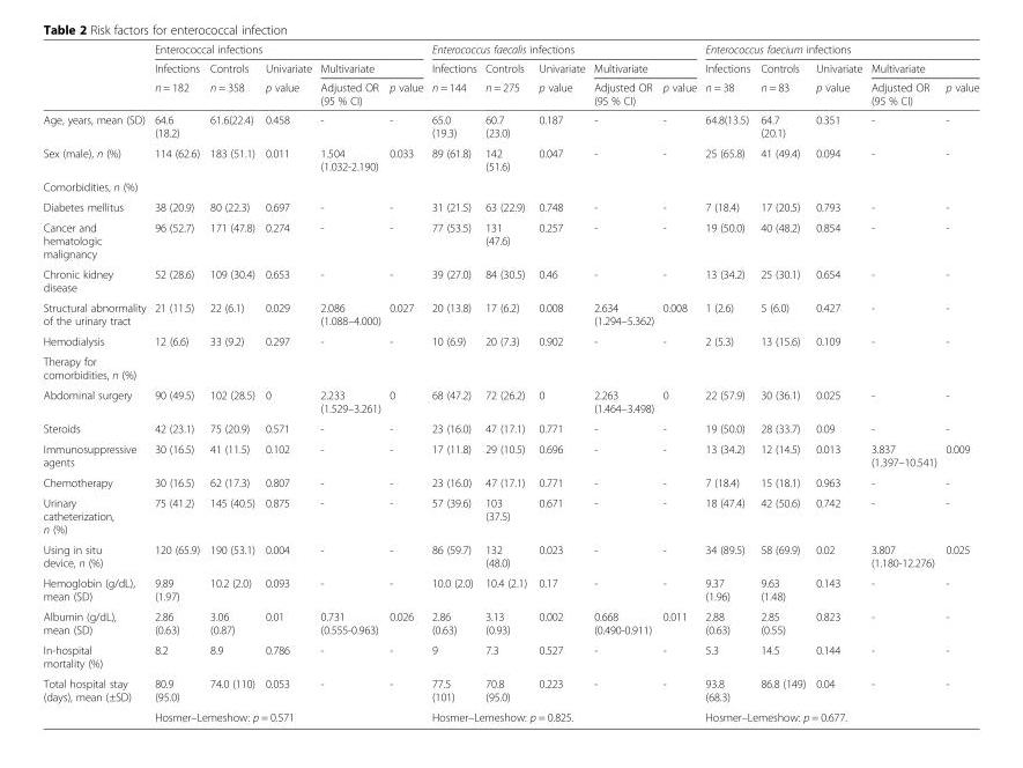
<table><thead><tr><td rowspan="3"></td><td colspan="5">Enterococcal infections</td><td colspan="5">Enterococcus faecalis infections</td><td colspan="5">Enterococcus faecium infections</td></tr><tr><td rowspan="2">Infections n = 182</td><td rowspan="2">Controls n = 358</td><td rowspan="2">Univariate p value</td><td colspan="2">Multivariate</td><td rowspan="2">Infections n = 144</td><td rowspan="2">Controls n = 275</td><td rowspan="2">Univariate p value</td><td colspan="2">Multivariate</td><td rowspan="2">Infections n = 38</td><td rowspan="2">Controls n = 83</td><td rowspan="2">Univariate p value</td><td colspan="2">Multivariate</td></tr><tr><td>Adjusted OR (95 % CI)</td><td>p value</td><td>Adjusted OR (95 % CI)</td><td>p value</td><td>Adjusted OR (95 % CI)</td><td>p value</td></tr></thead><tbody><tr><td>Age, years, mean (SD)</td><td>64.6 (18.2)</td><td>61.6(22.4)</td><td>0.458</td><td>-</td><td>-</td><td>65.0 (19.3)</td><td>60.7 (23.0)</td><td>0.187</td><td>-</td><td>-</td><td>64.8(13.5)</td><td>64.7 (20.1)</td><td>0.351</td><td>-</td><td>-</td></tr><tr><td>Sex (male), n (%)</td><td>114 (62.6)</td><td>183 (51.1)</td><td>0.011</td><td>1.504 (1.032-2.190)</td><td>0.033</td><td>89 (61.8)</td><td>142 (51.6)</td><td>0.047</td><td>-</td><td>-</td><td>25 (65.8)</td><td>41 (49.4)</td><td>0.094</td><td>-</td><td>-</td></tr><tr><td colspan="16">Comorbidities, n (%)</td></tr><tr><td>Diabetes mellitus</td><td>38 (20.9)</td><td>80 (22.3)</td><td>0.697</td><td>-</td><td>-</td><td>31 (21.5)</td><td>63 (22.9)</td><td>0.748</td><td>-</td><td>-</td><td>7 (18.4)</td><td>17 (20.5)</td><td>0.793</td><td>-</td><td>-</td></tr><tr><td>Cancer and hematologic malignancy</td><td>96 (52.7)</td><td>171 (47.8)</td><td>0.274</td><td>-</td><td>-</td><td>77 (53.5)</td><td>131 (47.6)</td><td>0.257</td><td>-</td><td>-</td><td>19 (50.0)</td><td>40 (48.2)</td><td>0.854</td><td>-</td><td>-</td></tr><tr><td>Chronic kidney disease</td><td>52 (28.6)</td><td>109 (30.4)</td><td>0.653</td><td>-</td><td>-</td><td>39 (27.0)</td><td>84 (30.5)</td><td>0.46</td><td>-</td><td>-</td><td>13 (34.2)</td><td>25 (30.1)</td><td>0.654</td><td>-</td><td>-</td></tr><tr><td>Structural abnormality of the urinary tract</td><td>21 (11.5)</td><td>22 (6.1)</td><td>0.029</td><td>2.086 (1.088–4.000)</td><td>0.027</td><td>20 (13.8)</td><td>17 (6.2)</td><td>0.008</td><td>2.634 (1.294–5.362)</td><td>0.008</td><td>1 (2.6)</td><td>5 (6.0)</td><td>0.427</td><td>-</td><td>-</td></tr><tr><td>Hemodialysis</td><td>12 (6.6)</td><td>33 (9.2)</td><td>0.297</td><td>-</td><td>-</td><td>10 (6.9)</td><td>20 (7.3)</td><td>0.902</td><td>-</td><td>-</td><td>2 (5.3)</td><td>13 (15.6)</td><td>0.109</td><td>-</td><td>-</td></tr><tr><td colspan="16">Therapy for comorbidities, n (%)</td></tr><tr><td>Abdominal surgery</td><td>90 (49.5)</td><td>102 (28.5)</td><td>0</td><td>2.233 (1.529–3.261)</td><td>0</td><td>68 (47.2)</td><td>72 (26.2)</td><td>0</td><td>2.263 (1.464–3.498)</td><td>0</td><td>22 (57.9)</td><td>30 (36.1)</td><td>0.025</td><td>-</td><td>-</td></tr><tr><td>Steroids</td><td>42 (23.1)</td><td>75 (20.9)</td><td>0.571</td><td>-</td><td>-</td><td>23 (16.0)</td><td>47 (17.1)</td><td>0.771</td><td>-</td><td>-</td><td>19 (50.0)</td><td>28 (33.7)</td><td>0.09</td><td>-</td><td>-</td></tr><tr><td>Immunosuppressive agents</td><td>30 (16.5)</td><td>41 (11.5)</td><td>0.102</td><td>-</td><td>-</td><td>17 (11.8)</td><td>29 (10.5)</td><td>0.696</td><td>-</td><td>-</td><td>13 (34.2)</td><td>12 (14.5)</td><td>0.013</td><td>3.837 (1.397–10.541)</td><td>0.009</td></tr><tr><td>Chemotherapy</td><td>30 (16.5)</td><td>62 (17.3)</td><td>0.807</td><td>-</td><td>-</td><td>23 (16.0)</td><td>47 (17.1)</td><td>0.771</td><td>-</td><td>-</td><td>7 (18.4)</td><td>15 (18.1)</td><td>0.963</td><td>-</td><td>-</td></tr><tr><td>Urinary catheterization, n (%)</td><td>75 (41.2)</td><td>145 (40.5)</td><td>0.875</td><td>-</td><td>-</td><td>57 (39.6)</td><td>103 (37.5)</td><td>0.671</td><td>-</td><td>-</td><td>18 (47.4)</td><td>42 (50.6)</td><td>0.742</td><td>-</td><td>-</td></tr><tr><td>Using in situ device, n (%)</td><td>120 (65.9)</td><td>190 (53.1)</td><td>0.004</td><td>-</td><td>-</td><td>86 (59.7)</td><td>132 (48.0)</td><td>0.023</td><td>-</td><td>-</td><td>34 (89.5)</td><td>58 (69.9)</td><td>0.02</td><td>3.807 (1.180-12.276)</td><td>0.025</td></tr><tr><td>Hemoglobin (g/dL), mean (SD)</td><td>9.89 (1.97)</td><td>10.2 (2.0)</td><td>0.093</td><td>-</td><td>-</td><td>10.0 (2.0)</td><td>10.4 (2.1)</td><td>0.17</td><td>-</td><td>-</td><td>9.37 (1.96)</td><td>9.63 (1.48)</td><td>0.143</td><td>-</td><td>-</td></tr><tr><td>Albumin (g/dL), mean (SD)</td><td>2.86 (0.63)</td><td>3.06 (0.87)</td><td>0.01</td><td>0.731 (0.555-0.963)</td><td>0.026</td><td>2.86 (0.63)</td><td>3.13 (0.93)</td><td>0.002</td><td>0.668 (0.490-0.911)</td><td>0.011</td><td>2.88 (0.63)</td><td>2.85 (0.55)</td><td>0.823</td><td>-</td><td>-</td></tr><tr><td>In-hospital mortality (%)</td><td>8.2</td><td>8.9</td><td>0.786</td><td>-</td><td>-</td><td>9</td><td>7.3</td><td>0.527</td><td>-</td><td>-</td><td>5.3</td><td>14.5</td><td>0.144</td><td>-</td><td>-</td></tr><tr><td rowspan="2">Total hospital stay (days), mean (±SD)</td><td>80.9 (95.0)</td><td>74.0 (110)</td><td>0.053</td><td>-</td><td>-</td><td>77.5 (101)</td><td>70.8 (95.0)</td><td>0.223</td><td>-</td><td>-</td><td>93.8 (68.3)</td><td>86.8 (149)</td><td>0.04</td><td>-</td><td>-</td></tr><tr><td colspan="5">Hosmer–Lemeshow: p = 0.571</td><td colspan="5">Hosmer–Lemeshow: p = 0.825.</td><td colspan="5">Hosmer–Lemeshow: p = 0.677.</td></tr></tbody></table>